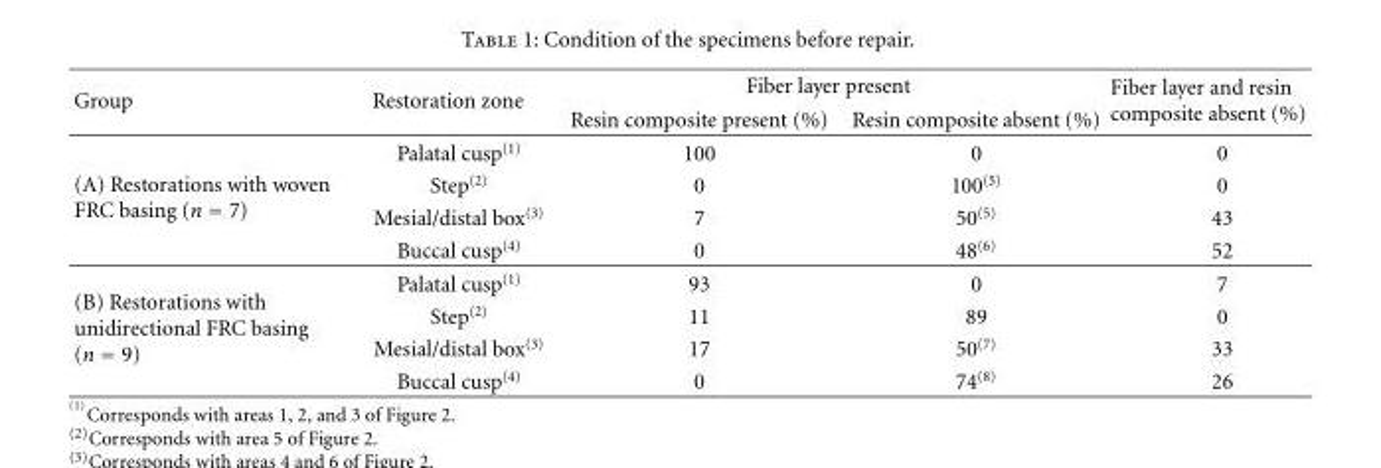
<table><thead><tr><td rowspan="2">Group</td><td rowspan="2">Restoration zone</td><td colspan="2">Fiber layer present</td><td rowspan="2">Fiber layer and resin composite absent (%)</td></tr><tr><td>Resin composite present (%)</td><td>Resin composite absent (%)</td></tr></thead><tbody><tr><td rowspan="4">(A) Restorations with woven FRC basing (n = 7)</td><td>Palatal cusp<sup>(1)</sup></td><td>100</td><td>0</td><td>0</td></tr><tr><td>Step<sup>(2)</sup></td><td>0</td><td>100<sup>(5)</sup></td><td>0</td></tr><tr><td>Mesial/distal box<sup>(3)</sup></td><td>7</td><td>50<sup>(5)</sup></td><td>43</td></tr><tr><td>Buccal cusp<sup>(4)</sup></td><td>0</td><td>48<sup>(6)</sup></td><td>52</td></tr><tr><td rowspan="4">(B) Restorations with unidirectional FRC basing (n = 9)</td><td>Palatal cusp<sup>(1)</sup></td><td>93</td><td>0</td><td>7</td></tr><tr><td>Step<sup>(2)</sup></td><td>11</td><td>89</td><td>0</td></tr><tr><td>Mesial/distal box<sup>(3)</sup></td><td>17</td><td>50<sup>(7)</sup></td><td>33</td></tr><tr><td>Buccal cusp<sup>(4)</sup></td><td>0</td><td>74<sup>(8)</sup></td><td>26</td></tr></tbody></table>